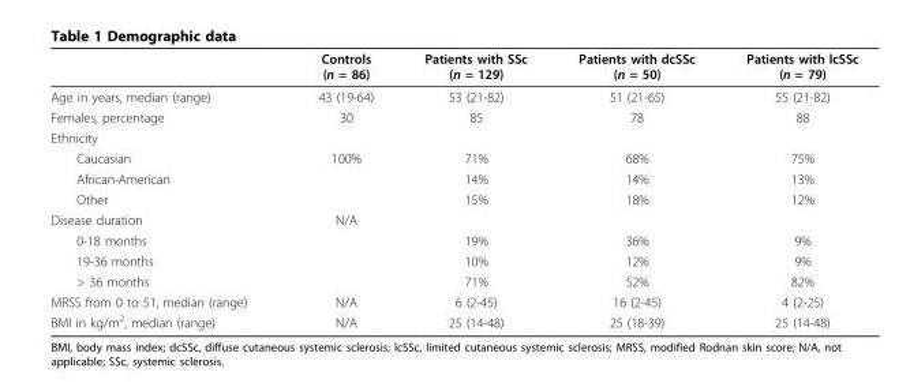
<table><thead><tr><td></td><td>Controls (n = 86)</td><td>Patients with SSc (n = 129)</td><td>Patients with dcSSc (n = 50)</td><td>Patients with lcSSc (n = 79)</td></tr></thead><tbody><tr><td>Age in years, median (range)</td><td>43 (19-64)</td><td>53 (21-82)</td><td>51 (21-65)</td><td>55 (21-82)</td></tr><tr><td>Females, percentage</td><td>30</td><td>85</td><td>78</td><td>88</td></tr><tr><td colspan="5">Ethnicity</td></tr><tr><td>Caucasian</td><td>100%</td><td>71%</td><td>68%</td><td>75%</td></tr><tr><td>African-American</td><td></td><td>14%</td><td>14%</td><td>13%</td></tr><tr><td>Other</td><td></td><td>15%</td><td>18%</td><td>12%</td></tr><tr><td>Disease duration</td><td>N/A</td><td></td><td></td><td></td></tr><tr><td>0-18 months</td><td></td><td>19%</td><td>36%</td><td>9%</td></tr><tr><td>19-36 months</td><td></td><td>10%</td><td>12%</td><td>9%</td></tr><tr><td>&gt; 36 months</td><td></td><td>71%</td><td>52%</td><td>82%</td></tr><tr><td>MRSS from 0 to 51, median (range)</td><td>N/A</td><td>6 (2-45)</td><td>16 (2-45)</td><td>4 (2-25)</td></tr><tr><td>BMI in kg/m<sup>2</sup>, median (range)</td><td>N/A</td><td>25 (14-48)</td><td>25 (18-39)</td><td>25 (14-48)</td></tr></tbody></table>